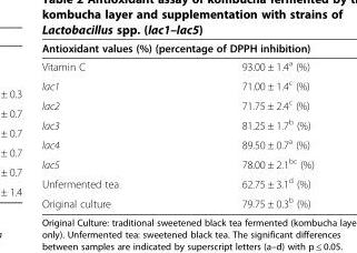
<table><thead><tr><td colspan="2">Antioxidant values (%) (percentage of DPPH inhibition)</td></tr><tr><td>Vitamin C</td><td>93.00 ± 1.4<sup>a</sup> (%)</td></tr></thead><tbody><tr><td>lac1</td><td>71.00 ± 1.4<sup>c</sup> (%)</td></tr><tr><td>lac2</td><td>71.75 ± 2.4<sup>c</sup> (%)</td></tr><tr><td>lac3</td><td>81.25 ± 1.7<sup>b</sup> (%)</td></tr><tr><td>lac4</td><td>89.50 ± 0.7<sup>a</sup> (%)</td></tr><tr><td>lac5</td><td>78.00 ± 2.1<sup>bc</sup> (%)</td></tr><tr><td>Unfermented tea</td><td>62.75 ± 3.1<sup>d</sup> (%)</td></tr><tr><td>Original culture</td><td>79.75 ± 0.3<sup>b</sup> (%)</td></tr></tbody></table>